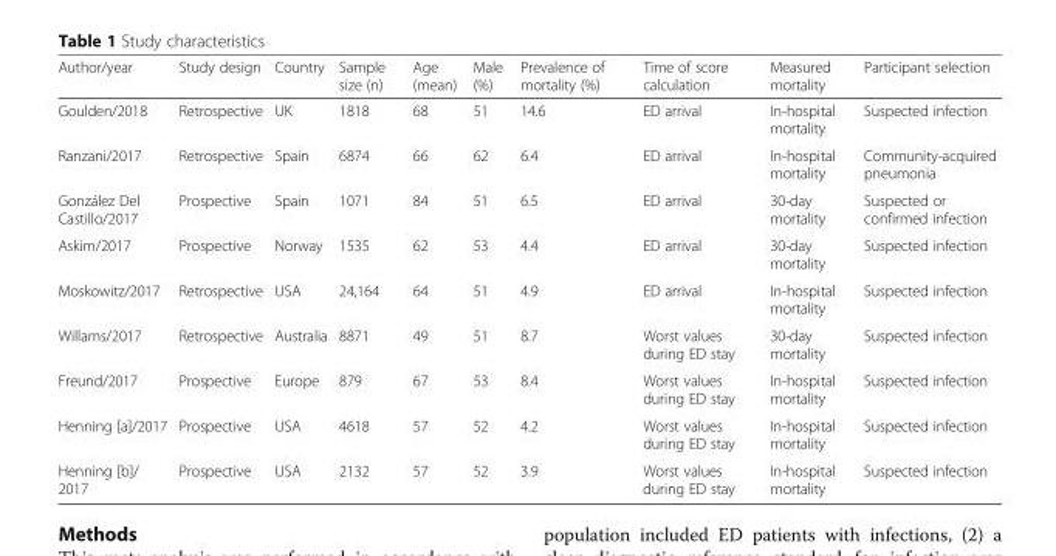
<table><thead><tr><td>Author/year</td><td>Study design</td><td>Country</td><td>Sample size (n)</td><td>Age (mean)</td><td>Male (%)</td><td>Prevalence of mortality (%)</td><td>Time of score calculation</td><td>Measured mortality</td><td>Participant selection</td></tr></thead><tbody><tr><td>Goulden/2018</td><td>Retrospective</td><td>UK</td><td>1818</td><td>68</td><td>51</td><td>14.6</td><td>ED arrival</td><td>In-hospital mortality</td><td>Suspected infection</td></tr><tr><td>Ranzani/2017</td><td>Retrospective</td><td>Spain</td><td>6874</td><td>66</td><td>62</td><td>6.4</td><td>ED arrival</td><td>In-hospital mortality</td><td>Community-acquired pneumonia</td></tr><tr><td>González Del Castillo/2017</td><td>Prospective</td><td>Spain</td><td>1071</td><td>84</td><td>51</td><td>6.5</td><td>ED arrival</td><td>30-day mortality</td><td>Suspected or confirmed infection</td></tr><tr><td>Askim/2017</td><td>Prospective</td><td>Norway</td><td>1535</td><td>62</td><td>53</td><td>4.4</td><td>ED arrival</td><td>30-day mortality</td><td>Suspected infection</td></tr><tr><td>Moskowitz/2017</td><td>Retrospective</td><td>USA</td><td>24,164</td><td>64</td><td>51</td><td>4.9</td><td>ED arrival</td><td>In-hospital mortality</td><td>Suspected infection</td></tr><tr><td>Willams/2017</td><td>Retrospective</td><td>Australia</td><td>8871</td><td>49</td><td>51</td><td>8.7</td><td>Worst values during ED stay</td><td>30-day mortality</td><td>Suspected infection</td></tr><tr><td>Freund/2017</td><td>Prospective</td><td>Europe</td><td>879</td><td>67</td><td>53</td><td>8.4</td><td>Worst values during ED stay</td><td>In-hospital mortality</td><td>Suspected infection</td></tr><tr><td>Henning [a]/2017</td><td>Prospective</td><td>USA</td><td>4618</td><td>57</td><td>52</td><td>4.2</td><td>Worst values during ED stay</td><td>In-hospital mortality</td><td>Suspected infection</td></tr><tr><td>Henning [b]/ 2017</td><td>Prospective</td><td>USA</td><td>2132</td><td>57</td><td>52</td><td>3.9</td><td>Worst values during ED stay</td><td>In-hospital mortality</td><td>Suspected infection</td></tr></tbody></table>